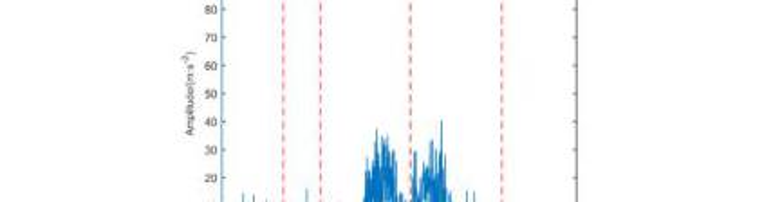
<table><thead><tr><td></td><td>IMF1</td><td>IMF2</td><td>IMF3</td><td>IMF4</td><td>IMF5</td><td>IMF6</td><td>IMF7</td><td>IMF8</td></tr></thead><tbody><tr><td>SSR</td><td>164.06</td><td>93.75</td><td>29.30</td><td>117.19</td><td>29.30</td><td>29.30</td><td>29.30</td><td>164.06</td></tr><tr><td>MSSR</td><td>357.42</td><td>117.19</td><td>29.30</td><td>29.30</td><td>164.06</td><td></td><td></td><td></td></tr></tbody></table>